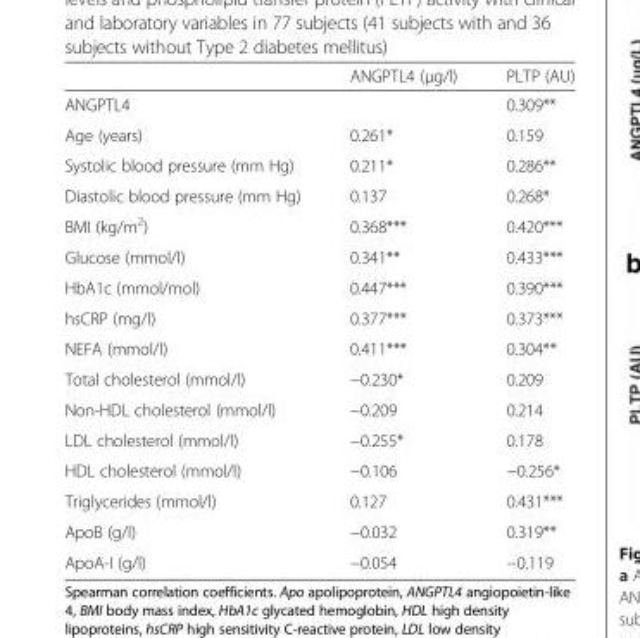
<table><thead><tr><td></td><td>ANGPTL4 (μg/l)</td><td>PLTP (AU)</td></tr></thead><tbody><tr><td colspan="2">ANGPTL4</td><td>0.309**</td></tr><tr><td>Age (years)</td><td>0.261*</td><td>0.159</td></tr><tr><td>Systolic blood pressure (mm Hg)</td><td>0.211*</td><td>0.286**</td></tr><tr><td>Diastolic blood pressure (mm Hg)</td><td>0.137</td><td>0.268*</td></tr><tr><td>BMI (kg/m<sup>2</sup>)</td><td>0.368***</td><td>0.420***</td></tr><tr><td>Glucose (mmol/l)</td><td>0.341**</td><td>0.433***</td></tr><tr><td>HbA1c (mmol/mol)</td><td>0.447***</td><td>0.390***</td></tr><tr><td>hsCRP (mg/l)</td><td>0.377***</td><td>0.373***</td></tr><tr><td>NEFA (mmol/l)</td><td>0.411***</td><td>0.304**</td></tr><tr><td>Total cholesterol (mmol/l)</td><td>−0.230*</td><td>0.209</td></tr><tr><td>Non-HDL cholesterol (mmol/l)</td><td>−0.209</td><td>0.214</td></tr><tr><td>LDL cholesterol (mmol/l)</td><td>−0.255*</td><td>0.178</td></tr><tr><td>HDL cholesterol (mmol/l)</td><td>−0.106</td><td>−0.256*</td></tr><tr><td>Triglycerides (mmol/l)</td><td>0.127</td><td>0.431***</td></tr><tr><td>ApoB (g/l)</td><td>−0.032</td><td>0.319**</td></tr><tr><td>ApoA-I (g/l)</td><td>−0.054</td><td>−0.119</td></tr></tbody></table>